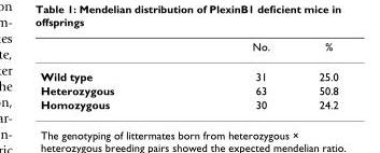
<table><thead><tr><td></td><td>No.</td><td>%</td></tr></thead><tbody><tr><td>Wild type</td><td>31</td><td>25.0</td></tr><tr><td>Heterozygous</td><td>63</td><td>50.8</td></tr><tr><td>Homozygous</td><td>30</td><td>24.2</td></tr></tbody></table>